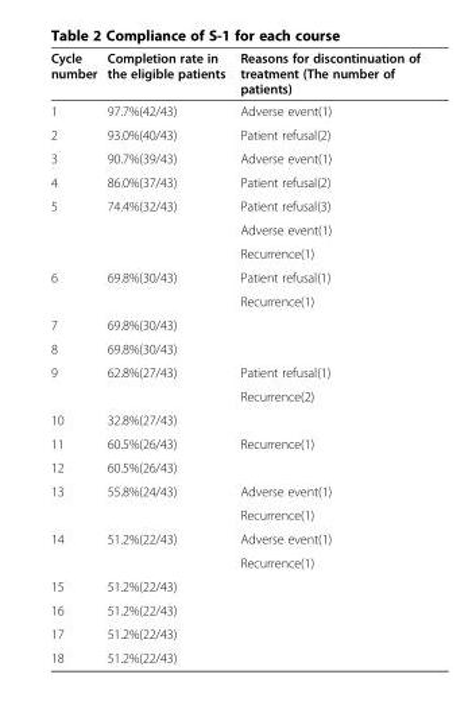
<table><thead><tr><td>Cycle number</td><td>Completion rate in the eligible patients</td><td>Reasons for discontinuation of treatment (The number of patients)</td></tr></thead><tbody><tr><td>1</td><td>97.7%(42/43)</td><td>Adverse event(1)</td></tr><tr><td>2</td><td>93.0%(40/43)</td><td>Patient refusal(2)</td></tr><tr><td>3</td><td>90.7%(39/43)</td><td>Adverse event(1)</td></tr><tr><td>4</td><td>86.0%(37/43)</td><td>Patient refusal(2)</td></tr><tr><td rowspan="3">5</td><td rowspan="3">74.4%(32/43)</td><td>Patient refusal(3)</td></tr><tr><td>Adverse event(1)</td></tr><tr><td>Recurrence(1)</td></tr><tr><td rowspan="2">6</td><td rowspan="2">69.8%(30/43)</td><td>Patient refusal(1)</td></tr><tr><td>Recurrence(1)</td></tr><tr><td>7</td><td>69.8%(30/43)</td><td></td></tr><tr><td>8</td><td>69.8%(30/43)</td><td></td></tr><tr><td rowspan="2">9</td><td rowspan="2">62.8%(27/43)</td><td>Patient refusal(1)</td></tr><tr><td>Recurrence(2)</td></tr><tr><td>10</td><td>32.8%(27/43)</td><td></td></tr><tr><td>11</td><td>60.5%(26/43)</td><td>Recurrence(1)</td></tr><tr><td>12</td><td>60.5%(26/43)</td><td></td></tr><tr><td rowspan="2">13</td><td rowspan="2">55.8%(24/43)</td><td>Adverse event(1)</td></tr><tr><td>Recurrence(1)</td></tr><tr><td rowspan="2">14</td><td rowspan="2">51.2%(22/43)</td><td>Adverse event(1)</td></tr><tr><td>Recurrence(1)</td></tr><tr><td>15</td><td>51.2%(22/43)</td><td></td></tr><tr><td>16</td><td>51.2%(22/43)</td><td></td></tr><tr><td>17</td><td>51.2%(22/43)</td><td></td></tr><tr><td>18</td><td>51.2%(22/43)</td><td></td></tr></tbody></table>